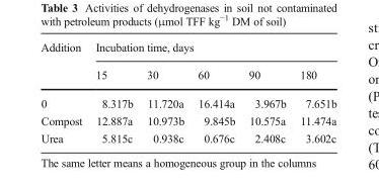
<table><thead><tr><td rowspan="2">Addition</td><td colspan="5">Incubation time, days</td></tr><tr><td>15</td><td>30</td><td>60</td><td>90</td><td>180</td></tr></thead><tbody><tr><td>0</td><td>8.317b</td><td>11.720a</td><td>16.414a</td><td>3.967b</td><td>7.651b</td></tr><tr><td>Compost</td><td>12.887a</td><td>10.973b</td><td>9.845b</td><td>10.575a</td><td>11.474a</td></tr><tr><td>Urea</td><td>5.815c</td><td>0.938c</td><td>0.676c</td><td>2.408c</td><td>3.602c</td></tr></tbody></table>